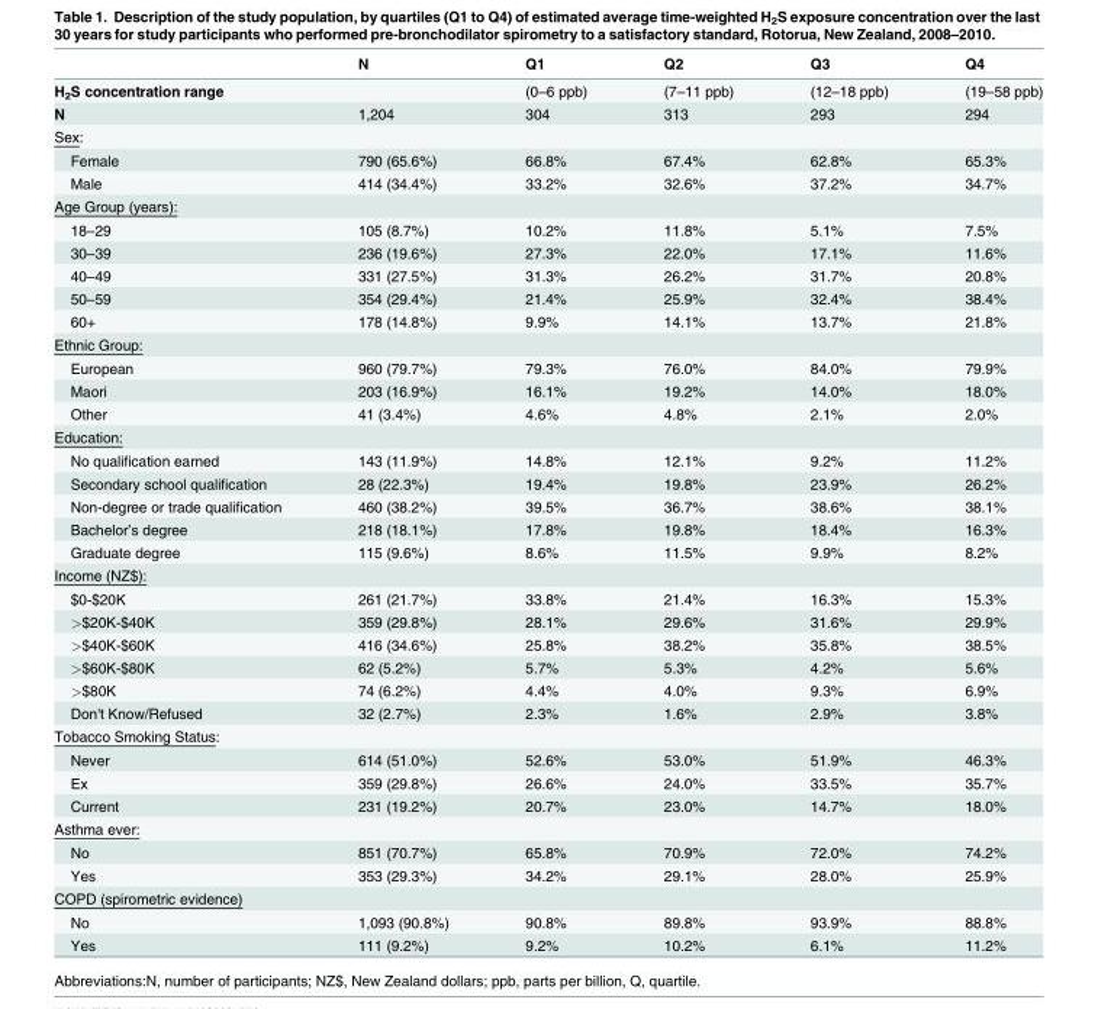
<table><thead><tr><td></td><td>N</td><td>Q1</td><td>Q2</td><td>Q3</td><td>Q4</td></tr></thead><tbody><tr><td>H<sub>2</sub>S concentration range</td><td></td><td>(0–6 ppb)</td><td>(7–11 ppb)</td><td>(12–18 ppb)</td><td>(19–58 ppb)</td></tr><tr><td>N</td><td>1,204</td><td>304</td><td>313</td><td>293</td><td>294</td></tr><tr><td colspan="6">Sex:</td></tr><tr><td>Female</td><td>790 (65.6%)</td><td>66.8%</td><td>67.4%</td><td>62.8%</td><td>65.3%</td></tr><tr><td>Male</td><td>414 (34.4%)</td><td>33.2%</td><td>32.6%</td><td>37.2%</td><td>34.7%</td></tr><tr><td colspan="6">Age Group (years):</td></tr><tr><td>18–29</td><td>105 (8.7%)</td><td>10.2%</td><td>11.8%</td><td>5.1%</td><td>7.5%</td></tr><tr><td>30–39</td><td>236 (19.6%)</td><td>27.3%</td><td>22.0%</td><td>17.1%</td><td>11.6%</td></tr><tr><td>40–49</td><td>331 (27.5%)</td><td>31.3%</td><td>26.2%</td><td>31.7%</td><td>20.8%</td></tr><tr><td>50–59</td><td>354 (29.4%)</td><td>21.4%</td><td>25.9%</td><td>32.4%</td><td>38.4%</td></tr><tr><td>60+</td><td>178 (14.8%)</td><td>9.9%</td><td>14.1%</td><td>13.7%</td><td>21.8%</td></tr><tr><td colspan="6">Ethnic Group:</td></tr><tr><td>European</td><td>960 (79.7%)</td><td>79.3%</td><td>76.0%</td><td>84.0%</td><td>79.9%</td></tr><tr><td>Maori</td><td>203 (16.9%)</td><td>16.1%</td><td>19.2%</td><td>14.0%</td><td>18.0%</td></tr><tr><td>Other</td><td>41 (3.4%)</td><td>4.6%</td><td>4.8%</td><td>2.1%</td><td>2.0%</td></tr><tr><td colspan="6">Education:</td></tr><tr><td>No qualification earned</td><td>143 (11.9%)</td><td>14.8%</td><td>12.1%</td><td>9.2%</td><td>11.2%</td></tr><tr><td>Secondary school qualification</td><td>28 (22.3%)</td><td>19.4%</td><td>19.8%</td><td>23.9%</td><td>26.2%</td></tr><tr><td>Non-degree or trade qualification</td><td>460 (38.2%)</td><td>39.5%</td><td>36.7%</td><td>38.6%</td><td>38.1%</td></tr><tr><td>Bachelor’s degree</td><td>218 (18.1%)</td><td>17.8%</td><td>19.8%</td><td>18.4%</td><td>16.3%</td></tr><tr><td>Graduate degree</td><td>115 (9.6%)</td><td>8.6%</td><td>11.5%</td><td>9.9%</td><td>8.2%</td></tr><tr><td colspan="6">Income (NZ$):</td></tr><tr><td>$0-$20K</td><td>261 (21.7%)</td><td>33.8%</td><td>21.4%</td><td>16.3%</td><td>15.3%</td></tr><tr><td>&gt;$20K-$40K</td><td>359 (29.8%)</td><td>28.1%</td><td>29.6%</td><td>31.6%</td><td>29.9%</td></tr><tr><td>&gt;$40K-$60K</td><td>416 (34.6%)</td><td>25.8%</td><td>38.2%</td><td>35.8%</td><td>38.5%</td></tr><tr><td>&gt;$60K-$80K</td><td>62 (5.2%)</td><td>5.7%</td><td>5.3%</td><td>4.2%</td><td>5.6%</td></tr><tr><td>&gt;$80K</td><td>74 (6.2%)</td><td>4.4%</td><td>4.0%</td><td>9.3%</td><td>6.9%</td></tr><tr><td>Don&#x27;t Know/Refused</td><td>32 (2.7%)</td><td>2.3%</td><td>1.6%</td><td>2.9%</td><td>3.8%</td></tr><tr><td colspan="6">Tobacco Smoking Status:</td></tr><tr><td>Never</td><td>614 (51.0%)</td><td>52.6%</td><td>53.0%</td><td>51.9%</td><td>46.3%</td></tr><tr><td>Ex</td><td>359 (29.8%)</td><td>26.6%</td><td>24.0%</td><td>33.5%</td><td>35.7%</td></tr><tr><td>Current</td><td>231 (19.2%)</td><td>20.7%</td><td>23.0%</td><td>14.7%</td><td>18.0%</td></tr><tr><td colspan="6">Asthma ever:</td></tr><tr><td>No</td><td>851 (70.7%)</td><td>65.8%</td><td>70.9%</td><td>72.0%</td><td>74.2%</td></tr><tr><td>Yes</td><td>353 (29.3%)</td><td>34.2%</td><td>29.1%</td><td>28.0%</td><td>25.9%</td></tr><tr><td colspan="6">COPD (spirometric evidence)</td></tr><tr><td>No</td><td>1,093 (90.8%)</td><td>90.8%</td><td>89.8%</td><td>93.9%</td><td>88.8%</td></tr><tr><td>Yes</td><td>111 (9.2%)</td><td>9.2%</td><td>10.2%</td><td>6.1%</td><td>11.2%</td></tr></tbody></table>